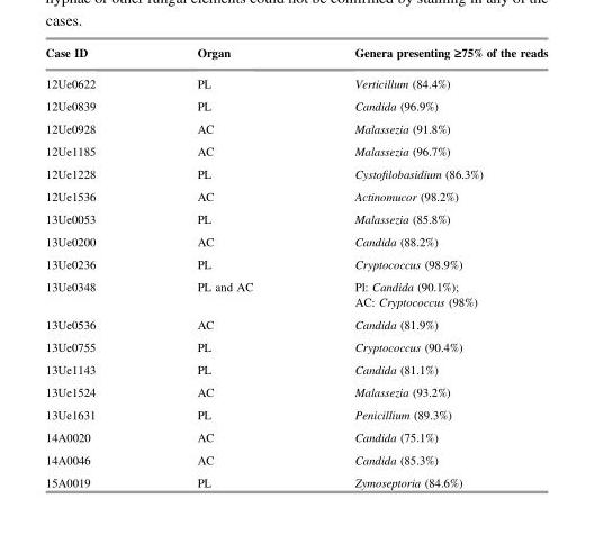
<table><thead><tr><td>Case ID</td><td>Organ</td><td>Genera presenting ‡75% of the reads</td></tr></thead><tbody><tr><td>12Ue0622</td><td>PL</td><td>Verticillum (84.4%)</td></tr><tr><td>12Ue0839</td><td>PL</td><td>Candida (96.9%)</td></tr><tr><td>12Ue0928</td><td>AC</td><td>Malassezia (91.8%)</td></tr><tr><td>12Ue1185</td><td>AC</td><td>Malassezia (96.7%)</td></tr><tr><td>12Ue1228</td><td>PL</td><td>Cystofilobasidium (86.3%)</td></tr><tr><td>12Ue1536</td><td>AC</td><td>Actinomucor (98.2%)</td></tr><tr><td>13Ue0053</td><td>PL</td><td>Malassezia (85.8%)</td></tr><tr><td>13Ue0200</td><td>AC</td><td>Candida (88.2%)</td></tr><tr><td>13Ue0236</td><td>PL</td><td>Cryptococcus (98.9%)</td></tr><tr><td>13Ue0348</td><td>PL and AC</td><td>Pl: Candida (90.1%); AC: Cryptococcus (98%)</td></tr><tr><td>13Ue0536</td><td>AC</td><td>Candida (81.9%)</td></tr><tr><td>13Ue0755</td><td>PL</td><td>Cryptococcus (90.4%)</td></tr><tr><td>13Ue1143</td><td>PL</td><td>Candida (81.1%)</td></tr><tr><td>13Ue1524</td><td>AC</td><td>Malassezia (93.2%)</td></tr><tr><td>13Ue1631</td><td>PL</td><td>Penicillium (89.3%)</td></tr><tr><td>14A0020</td><td>AC</td><td>Candida (75.1%)</td></tr><tr><td>14A0046</td><td>AC</td><td>Candida (85.3%)</td></tr><tr><td>15A0019</td><td>PL</td><td>Zymoseptoria (84.6%)</td></tr></tbody></table>